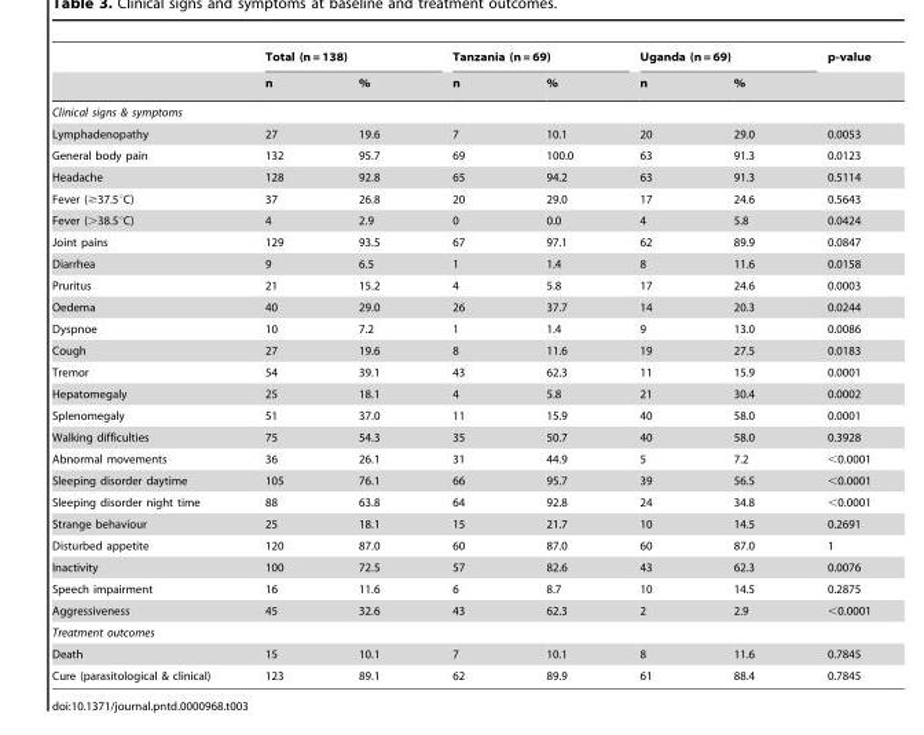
<table><thead><tr><td rowspan="2"></td><td colspan="2">Total (n = 138)</td><td colspan="2">Tanzania (n = 69)</td><td colspan="2">Uganda (n = 69)</td><td rowspan="2">p-value</td></tr><tr><td>n</td><td>%</td><td>n</td><td>%</td><td>n</td><td>%</td></tr></thead><tbody><tr><td colspan="8">Clinical signs &amp; symptoms</td></tr><tr><td>Lymphadenopathy</td><td>27</td><td>19.6</td><td>7</td><td>10.1</td><td>20</td><td>29.0</td><td>0.0053</td></tr><tr><td>General body pain</td><td>132</td><td>95.7</td><td>69</td><td>100.0</td><td>63</td><td>91.3</td><td>0.0123</td></tr><tr><td>Headache</td><td>128</td><td>92.8</td><td>65</td><td>94.2</td><td>63</td><td>91.3</td><td>0.5114</td></tr><tr><td>Fever (≥37.5°C)</td><td>37</td><td>26.8</td><td>20</td><td>29.0</td><td>17</td><td>24.6</td><td>0.5643</td></tr><tr><td>Fever (&gt;38.5°C)</td><td>4</td><td>2.9</td><td>0</td><td>0.0</td><td>4</td><td>5.8</td><td>0.0424</td></tr><tr><td>Joint pains</td><td>129</td><td>93.5</td><td>67</td><td>97.1</td><td>62</td><td>89.9</td><td>0.0847</td></tr><tr><td>Diarrhea</td><td>9</td><td>6.5</td><td>1</td><td>1.4</td><td>8</td><td>11.6</td><td>0.0158</td></tr><tr><td>Pruritus</td><td>21</td><td>15.2</td><td>4</td><td>5.8</td><td>17</td><td>24.6</td><td>0.0003</td></tr><tr><td>Oedema</td><td>40</td><td>29.0</td><td>26</td><td>37.7</td><td>14</td><td>20.3</td><td>0.0244</td></tr><tr><td>Dyspnoe</td><td>10</td><td>7.2</td><td>1</td><td>1.4</td><td>9</td><td>13.0</td><td>0.0086</td></tr><tr><td>Cough</td><td>27</td><td>19.6</td><td>8</td><td>11.6</td><td>19</td><td>27.5</td><td>0.0183</td></tr><tr><td>Tremor</td><td>54</td><td>39.1</td><td>43</td><td>62.3</td><td>11</td><td>15.9</td><td>0.0001</td></tr><tr><td>Hepatomegaly</td><td>25</td><td>18.1</td><td>4</td><td>5.8</td><td>21</td><td>30.4</td><td>0.0002</td></tr><tr><td>Splenomegaly</td><td>51</td><td>37.0</td><td>11</td><td>15.9</td><td>40</td><td>58.0</td><td>0.0001</td></tr><tr><td>Walking difficulties</td><td>75</td><td>54.3</td><td>35</td><td>50.7</td><td>40</td><td>58.0</td><td>0.3928</td></tr><tr><td>Abnormal movements</td><td>36</td><td>26.1</td><td>31</td><td>44.9</td><td>5</td><td>7.2</td><td>&lt;0.0001</td></tr><tr><td>Sleeping disorder daytime</td><td>105</td><td>76.1</td><td>66</td><td>95.7</td><td>39</td><td>56.5</td><td>&lt;0.0001</td></tr><tr><td>Sleeping disorder night time</td><td>88</td><td>63.8</td><td>64</td><td>92.8</td><td>24</td><td>34.8</td><td>&lt;0.0001</td></tr><tr><td>Strange behaviour</td><td>25</td><td>18.1</td><td>15</td><td>21.7</td><td>10</td><td>14.5</td><td>0.2691</td></tr><tr><td>Disturbed appetite</td><td>120</td><td>87.0</td><td>60</td><td>87.0</td><td>60</td><td>87.0</td><td>1</td></tr><tr><td>Inactivity</td><td>100</td><td>72.5</td><td>57</td><td>82.6</td><td>43</td><td>62.3</td><td>0.0076</td></tr><tr><td>Speech impairment</td><td>16</td><td>11.6</td><td>6</td><td>8.7</td><td>10</td><td>14.5</td><td>0.2875</td></tr><tr><td>Aggressiveness</td><td>45</td><td>32.6</td><td>43</td><td>62.3</td><td>2</td><td>2.9</td><td>&lt;0.0001</td></tr><tr><td colspan="8">Treatment outcomes</td></tr><tr><td>Death</td><td>15</td><td>10.1</td><td>7</td><td>10.1</td><td>8</td><td>11.6</td><td>0.7845</td></tr><tr><td>Cure (parasitological &amp; clinical)</td><td>123</td><td>89.1</td><td>62</td><td>89.9</td><td>61</td><td>88.4</td><td>0.7845</td></tr></tbody></table>